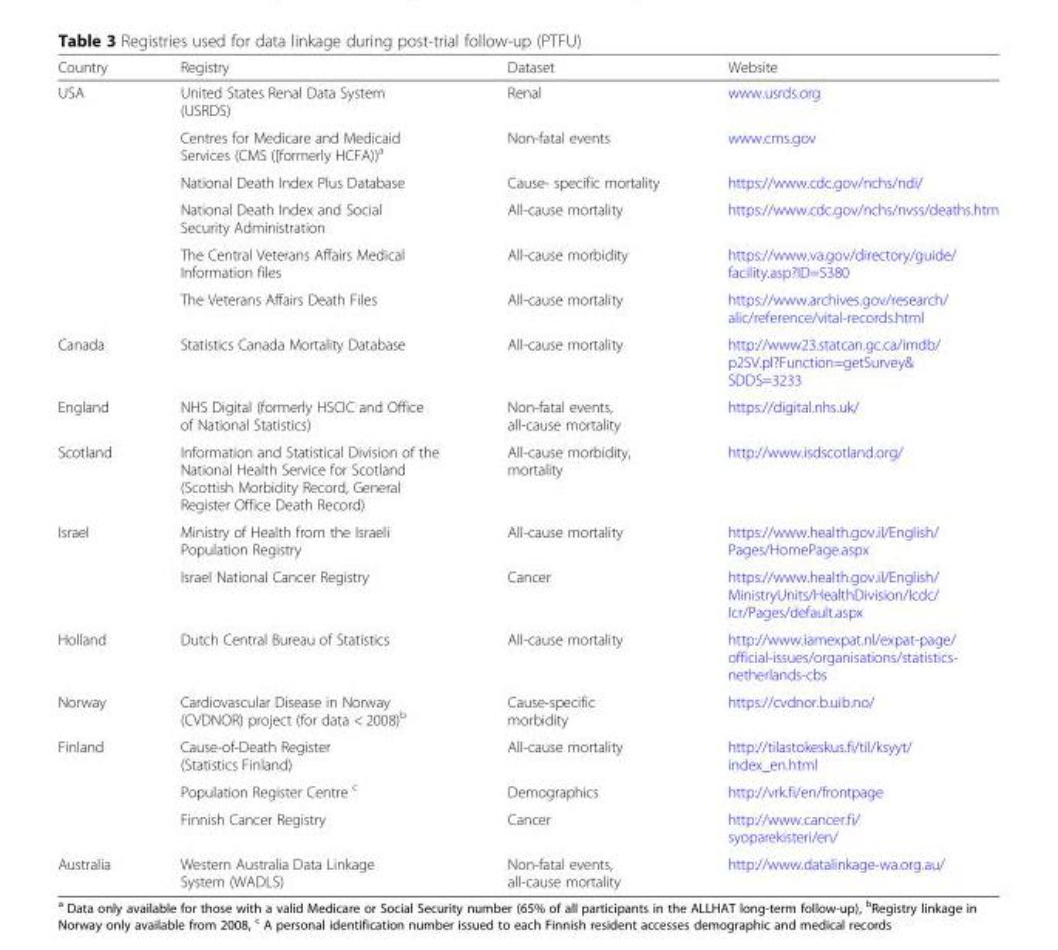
<table><thead><tr><td>Country</td><td>Registry</td><td>Dataset</td><td>Website</td></tr></thead><tbody><tr><td rowspan="6">USA</td><td>United States Renal Data System (USRDS)</td><td>Renal</td><td>www.usrds.org</td></tr><tr><td>Centres for Medicare and Medicaid Services (CMS ([formerly HCFA))<sup>a</sup></td><td>Non-fatal events</td><td>www.cms.gov</td></tr><tr><td>National Death Index Plus Database</td><td>Cause- specific mortality</td><td>https://www.cdc.gov/nchs/ndi/</td></tr><tr><td>National Death Index and Social Security Administration</td><td>All-cause mortality</td><td>https://www.cdc.gov/nchs/nvss/deaths.htm</td></tr><tr><td>The Central Veterans Affairs Medical Information files</td><td>All-cause morbidity</td><td>https://www.va.gov/directory/guide/ facility.asp?ID=5380</td></tr><tr><td>The Veterans Affairs Death Files</td><td>All-cause mortality</td><td>https://www.archives.gov/research/ alic/reference/vital-records.html</td></tr><tr><td>Canada</td><td>Statistics Canada Mortality Database</td><td>All-cause mortality</td><td>http://www23.statcan.gc.ca/imdb/ p2SV.pl?Function=getSurvey&amp; SDDS=3233</td></tr><tr><td>England</td><td>NHS Digital (formerly HSCIC and Office of National Statistics)</td><td>Non-fatal events, all-cause mortality</td><td>https://digital.nhs.uk/</td></tr><tr><td>Scotland</td><td>Information and Statistical Division of the National Health Service for Scotland (Scottish Morbidity Record, General Register Office Death Record)</td><td>All-cause morbidity, mortality</td><td>http://www.isdscotland.org/</td></tr><tr><td rowspan="2">Israel</td><td>Ministry of Health from the Israeli Population Registry</td><td>All-cause mortality</td><td>https://www.health.gov.il/English/ Pages/HomePage.aspx</td></tr><tr><td>Israel National Cancer Registry</td><td>Cancer</td><td>https://www.health.gov.il/English/ MinistryUnits/HealthDivision/Icdc/ Icr/Pages/default.aspx</td></tr><tr><td>Holland</td><td>Dutch Central Bureau of Statistics</td><td>All-cause mortality</td><td>http://www.iamexpat.nl/expat-page/ official-issues/organisations/statistics- netherlands-cbs</td></tr><tr><td>Norway</td><td>Cardiovascular Disease in Norway (CVDNOR) project (for data &lt; 2008)<sup>b</sup></td><td>Cause-specific morbidity</td><td>https://cvdnor.b.uib.no/</td></tr><tr><td rowspan="3">Finland</td><td>Cause-of-Death Register (Statistics Finland)</td><td>All-cause mortality</td><td>http://tilastokeskus.fi/til/ksyyt/ index_en.html</td></tr><tr><td>Population Register Centre <sup>c</sup></td><td>Demographics</td><td>http://vrk.fi/en/frontpage</td></tr><tr><td>Finnish Cancer Registry</td><td>Cancer</td><td>http://www.cancer.fi/ syoparekisteri/en/</td></tr><tr><td>Australia</td><td>Western Australia Data Linkage System (WADLS)</td><td>Non-fatal events, all-cause mortality</td><td>http://www.datalinkage-wa.org.au/</td></tr></tbody></table>